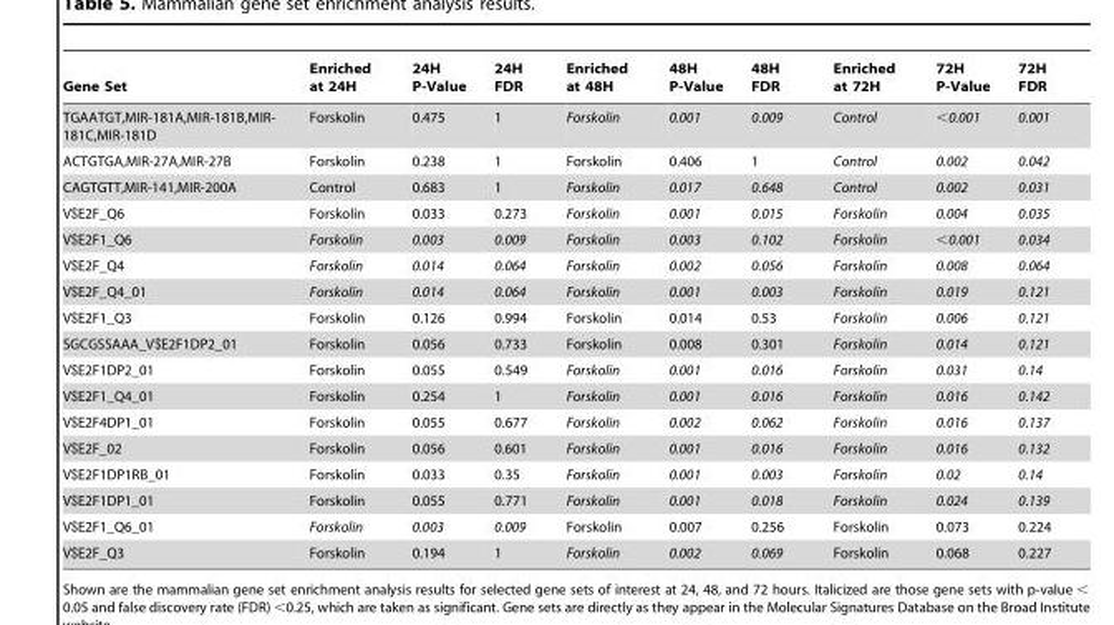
<table><thead><tr><td>Gene Set</td><td>Enriched at 24H</td><td>24H P-Value</td><td>24H FDR</td><td>Enriched at 48H</td><td>48H P-Value</td><td>48H FDR</td><td>Enriched at 72H</td><td>72H P-Value</td><td>72H FDR</td></tr></thead><tbody><tr><td>TGAATGT,MIR-181A,MIR-181B,MIR- 181C,MIR-181D</td><td>Forskolin</td><td>0.475</td><td>1</td><td>Forskolin</td><td>0.001</td><td>0.009</td><td>Control</td><td>&lt;0.001</td><td>0.001</td></tr><tr><td>ACTGTGA,MIR-27A,MIR-27B</td><td>Forskolin</td><td>0.238</td><td>1</td><td>Forskolin</td><td>0.406</td><td>1</td><td>Control</td><td>0.002</td><td>0.042</td></tr><tr><td>CAGTGTT,MIR-141,MIR-200A</td><td>Control</td><td>0.683</td><td>1</td><td>Forskolin</td><td>0.017</td><td>0.648</td><td>Control</td><td>0.002</td><td>0.031</td></tr><tr><td>V$E2F_Q6</td><td>Forskolin</td><td>0.033</td><td>0.273</td><td>Forskolin</td><td>0.001</td><td>0.015</td><td>Forskolin</td><td>0.004</td><td>0.035</td></tr><tr><td>V$E2F1_Q6</td><td>Forskolin</td><td>0.003</td><td>0.009</td><td>Forskolin</td><td>0.003</td><td>0.102</td><td>Forskolin</td><td>&lt;0.001</td><td>0.034</td></tr><tr><td>V$E2F_Q4</td><td>Forskolin</td><td>0.014</td><td>0.064</td><td>Forskolin</td><td>0.002</td><td>0.056</td><td>Forskolin</td><td>0.008</td><td>0.064</td></tr><tr><td>V$E2F_Q4_01</td><td>Forskolin</td><td>0.014</td><td>0.064</td><td>Forskolin</td><td>0.001</td><td>0.003</td><td>Forskolin</td><td>0.019</td><td>0.121</td></tr><tr><td>V$E2F1_Q3</td><td>Forskolin</td><td>0.126</td><td>0.994</td><td>Forskolin</td><td>0.014</td><td>0.53</td><td>Forskolin</td><td>0.006</td><td>0.121</td></tr><tr><td>SGCGSSAAA_V$E2F1DP2_01</td><td>Forskolin</td><td>0.056</td><td>0.733</td><td>Forskolin</td><td>0.008</td><td>0.301</td><td>Forskolin</td><td>0.014</td><td>0.121</td></tr><tr><td>V$E2F1DP2_01</td><td>Forskolin</td><td>0.055</td><td>0.549</td><td>Forskolin</td><td>0.001</td><td>0.016</td><td>Forskolin</td><td>0.031</td><td>0.14</td></tr><tr><td>V$E2F1_Q4_01</td><td>Forskolin</td><td>0.254</td><td>1</td><td>Forskolin</td><td>0.001</td><td>0.016</td><td>Forskolin</td><td>0.016</td><td>0.142</td></tr><tr><td>V$E2F4DP1_01</td><td>Forskolin</td><td>0.055</td><td>0.677</td><td>Forskolin</td><td>0.002</td><td>0.062</td><td>Forskolin</td><td>0.016</td><td>0.137</td></tr><tr><td>V$E2F_02</td><td>Forskolin</td><td>0.056</td><td>0.601</td><td>Forskolin</td><td>0.001</td><td>0.016</td><td>Forskolin</td><td>0.016</td><td>0.132</td></tr><tr><td>V$E2F1DP1RB_01</td><td>Forskolin</td><td>0.033</td><td>0.35</td><td>Forskolin</td><td>0.001</td><td>0.003</td><td>Forskolin</td><td>0.02</td><td>0.14</td></tr><tr><td>V$E2F1DP1_01</td><td>Forskolin</td><td>0.055</td><td>0.771</td><td>Forskolin</td><td>0.001</td><td>0.018</td><td>Forskolin</td><td>0.024</td><td>0.139</td></tr><tr><td>V$E2F1_Q6_01</td><td>Forskolin</td><td>0.003</td><td>0.009</td><td>Forskolin</td><td>0.007</td><td>0.256</td><td>Forskolin</td><td>0.073</td><td>0.224</td></tr><tr><td>V$E2F_Q3</td><td>Forskolin</td><td>0.194</td><td>1</td><td>Forskolin</td><td>0.002</td><td>0.069</td><td>Forskolin</td><td>0.068</td><td>0.227</td></tr></tbody></table>